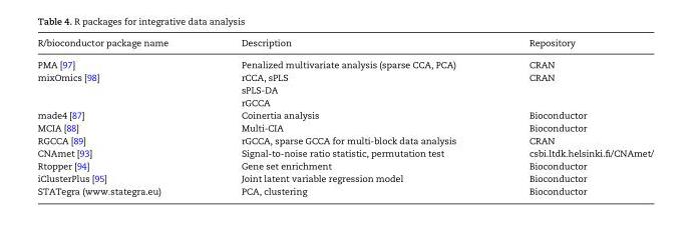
<table><thead><tr><td>R/bioconductor package name</td><td>Description</td><td>Repository</td></tr></thead><tbody><tr><td>PMA [97]</td><td>Penalized multivariate analysis (sparse CCA, PCA)</td><td>CRAN</td></tr><tr><td rowspan="3">mixOmics [98]</td><td>rCCA, sPLS</td><td rowspan="3">CRAN</td></tr><tr><td>sPLS-DA</td></tr><tr><td>rGCCA</td></tr><tr><td>made4 [87]</td><td>Coinertia analysis</td><td>Bioconductor</td></tr><tr><td>MCIA [88]</td><td>Multi-CIA</td><td>Bioconductor</td></tr><tr><td>RGCCA [89]</td><td>rGCCA, sparse GCCA for multi-block data analysis</td><td>CRAN</td></tr><tr><td>CNAmet [93]</td><td>Signal-to-noise ratio statistic, permutation test</td><td>csbi.ltdk.helsinki.fi/CNAmet/</td></tr><tr><td>Rtopper [94]</td><td>Gene set enrichment</td><td>Bioconductor</td></tr><tr><td>iClusterPlus [95]</td><td>Joint latent variable regression model</td><td>Bioconductor</td></tr><tr><td>STATegra (www.stategra.eu)</td><td>PCA, clustering</td><td>Bioconductor</td></tr></tbody></table>